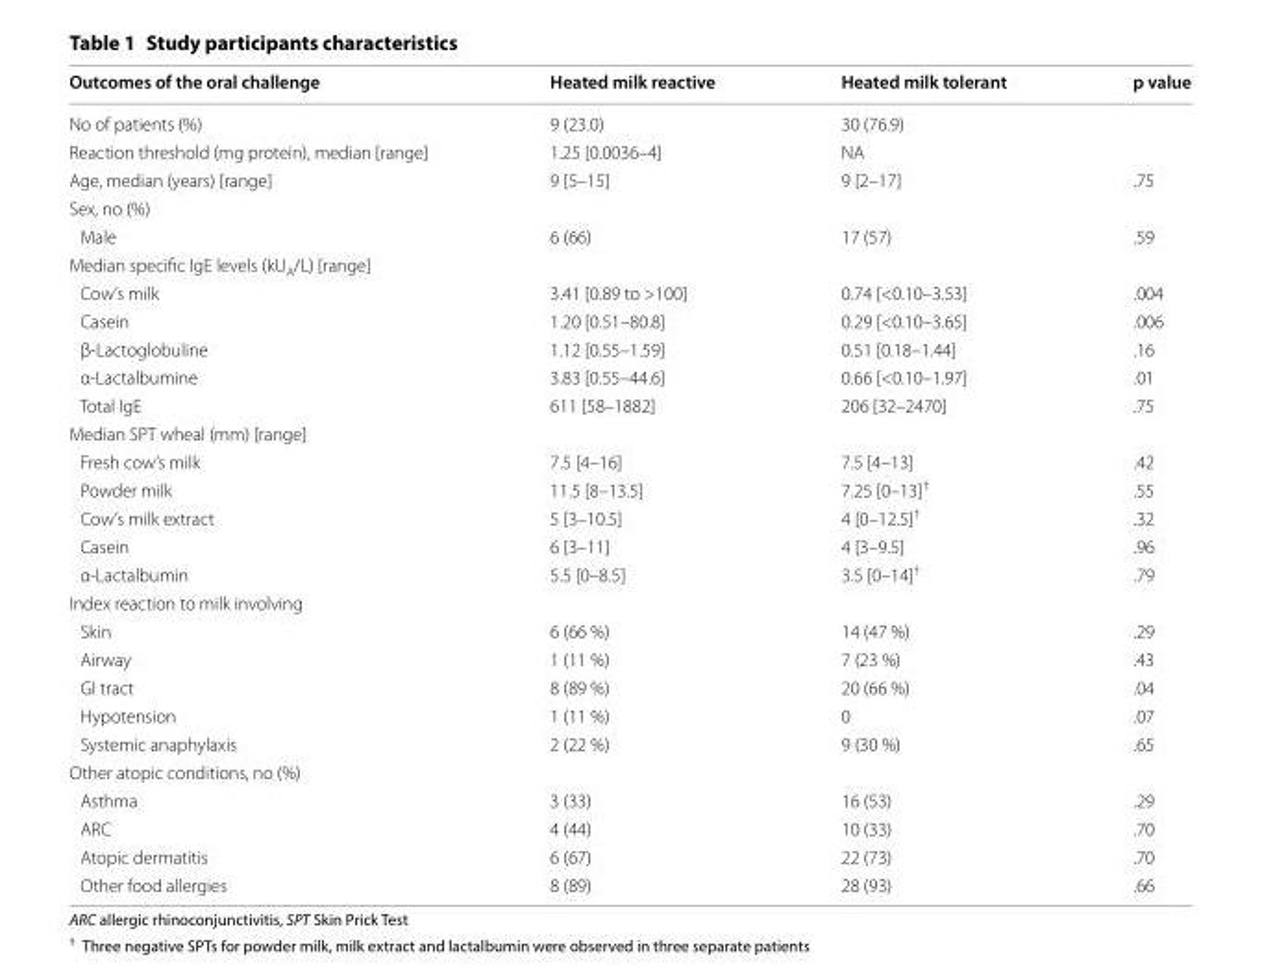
<table><thead><tr><td>Outcomes of the oral challenge</td><td>Heated milk reactive</td><td>Heated milk tolerant</td><td>p value</td></tr></thead><tbody><tr><td>No of patients (%)</td><td>9 (23.0)</td><td>30 (76.9)</td><td></td></tr><tr><td>Reaction threshold (mg protein), median [range]</td><td>1.25 [0.0036–4]</td><td>NA</td><td></td></tr><tr><td>Age, median (years) [range]</td><td>9 [5–15]</td><td>9 [2–17]</td><td>.75</td></tr><tr><td colspan="4">Sex, no (%)</td></tr><tr><td>Male</td><td>6 (66)</td><td>17 (57)</td><td>.59</td></tr><tr><td colspan="4">Median specific IgE levels (kU<sub>A</sub>/L) [range]</td></tr><tr><td>Cow’s milk</td><td>3.41 [0.89 to &gt;100]</td><td>0.74 [&lt;0.10–3.53]</td><td>.004</td></tr><tr><td>Casein</td><td>1.20 [0.51–80.8]</td><td>0.29 [&lt;0.10–3.65]</td><td>.006</td></tr><tr><td>β-Lactoglobuline</td><td>1.12 [0.55–1.59]</td><td>0.51 [0.18–1.44]</td><td>.16</td></tr><tr><td>α-Lactalbumine</td><td>3.83 [0.55–44.6]</td><td>0.66 [&lt;0.10–1.97]</td><td>.01</td></tr><tr><td>Total IgE</td><td>611 [58–1882]</td><td>206 [32–2470]</td><td>.75</td></tr><tr><td colspan="4">Median SPT wheal (mm) [range]</td></tr><tr><td>Fresh cow’s milk</td><td>7.5 [4–16]</td><td>7.5 [4–13]</td><td>.42</td></tr><tr><td>Powder milk</td><td>11.5 [8–13.5]</td><td>7.25 [0–13]<sup>†</sup></td><td>.55</td></tr><tr><td>Cow’s milk extract</td><td>5 [3–10.5]</td><td>4 [0–12.5]<sup>†</sup></td><td>.32</td></tr><tr><td>Casein</td><td>6 [3–11]</td><td>4 [3–9.5]</td><td>.96</td></tr><tr><td>α-Lactalbumin</td><td>5.5 [0–8.5]</td><td>3.5 [0–14]<sup>†</sup></td><td>.79</td></tr><tr><td colspan="4">Index reaction to milk involving</td></tr><tr><td>Skin</td><td>6 (66 %)</td><td>14 (47 %)</td><td>.29</td></tr><tr><td>Airway</td><td>1 (11 %)</td><td>7 (23 %)</td><td>.43</td></tr><tr><td>GI tract</td><td>8 (89 %)</td><td>20 (66 %)</td><td>.04</td></tr><tr><td>Hypotension</td><td>1 (11 %)</td><td>0</td><td>.07</td></tr><tr><td>Systemic anaphylaxis</td><td>2 (22 %)</td><td>9 (30 %)</td><td>.65</td></tr><tr><td colspan="4">Other atopic conditions, no (%)</td></tr><tr><td>Asthma</td><td>3 (33)</td><td>16 (53)</td><td>.29</td></tr><tr><td>ARC</td><td>4 (44)</td><td>10 (33)</td><td>.70</td></tr><tr><td>Atopic dermatitis</td><td>6 (67)</td><td>22 (73)</td><td>.70</td></tr><tr><td>Other food allergies</td><td>8 (89)</td><td>28 (93)</td><td>.66</td></tr></tbody></table>